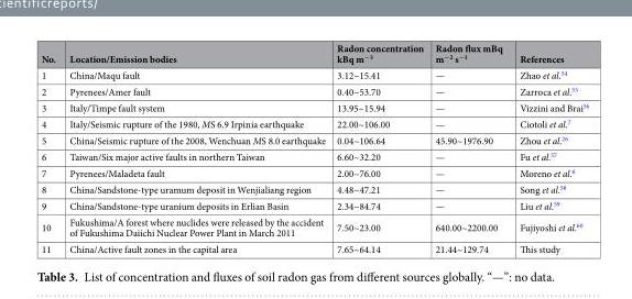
<table><thead><tr><td>No.</td><td>Location/Emission bodies</td><td>Radon concentration kBq m<sup>−3</sup></td><td>Radon flux mBq m<sup>−2</sup> s<sup>−1</sup></td><td>References</td></tr></thead><tbody><tr><td>1</td><td>China/Maqu fault</td><td>3.12~15.41</td><td>—</td><td>Zhao et al.<sup>54</sup></td></tr><tr><td>2</td><td>Pyrenees/Amer fault</td><td>0.40~53.70</td><td>—</td><td>Zarroca et al.<sup>55</sup></td></tr><tr><td>3</td><td>Italy/Timpe fault system</td><td>13.95~15.94</td><td>—</td><td>Vizzini and Brai<sup>56</sup></td></tr><tr><td>4</td><td>Italy/Seismic rupture of the 1980, MS 6.9 Irpinia earthquake</td><td>22.00~106.00</td><td>—</td><td>Ciotoli et al.<sup>7</sup></td></tr><tr><td>5</td><td>China/Seismic rupture of the 2008, Wenchuan MS 8.0 earthquake</td><td>0.04~106.64</td><td>45.90~1976.90</td><td>Zhou et al.<sup>26</sup></td></tr><tr><td>6</td><td>Taiwan/Six major active faults in northern Taiwan</td><td>6.60~32.20</td><td>—</td><td>Fu et al.<sup>57</sup></td></tr><tr><td>7</td><td>Pyrenees/Maladeta fault</td><td>2.00~76.00</td><td>—</td><td>Moreno et al.<sup>6</sup></td></tr><tr><td>8</td><td>China/Sandstone-type uramum deposit in Wenjialiang region</td><td>4.48~47.21</td><td>—</td><td>Song et al.<sup>58</sup></td></tr><tr><td>9</td><td>China/Sandstone-type uranium deposits in Erlian Basin</td><td>2.34~84.74</td><td>—</td><td>Liu et al.<sup>59</sup></td></tr><tr><td>10</td><td>Fukushima/A forest where nuclides were released by the accident of Fukushima Daiichi Nuclear Power Plant in March 2011</td><td>7.50~23.00</td><td>640.00~2200.00</td><td>Fujiyoshi et al.<sup>60</sup></td></tr><tr><td>11</td><td>China/Active fault zones in the capital area</td><td>7.65~64.14</td><td>21.44~129.74</td><td>This study</td></tr></tbody></table>